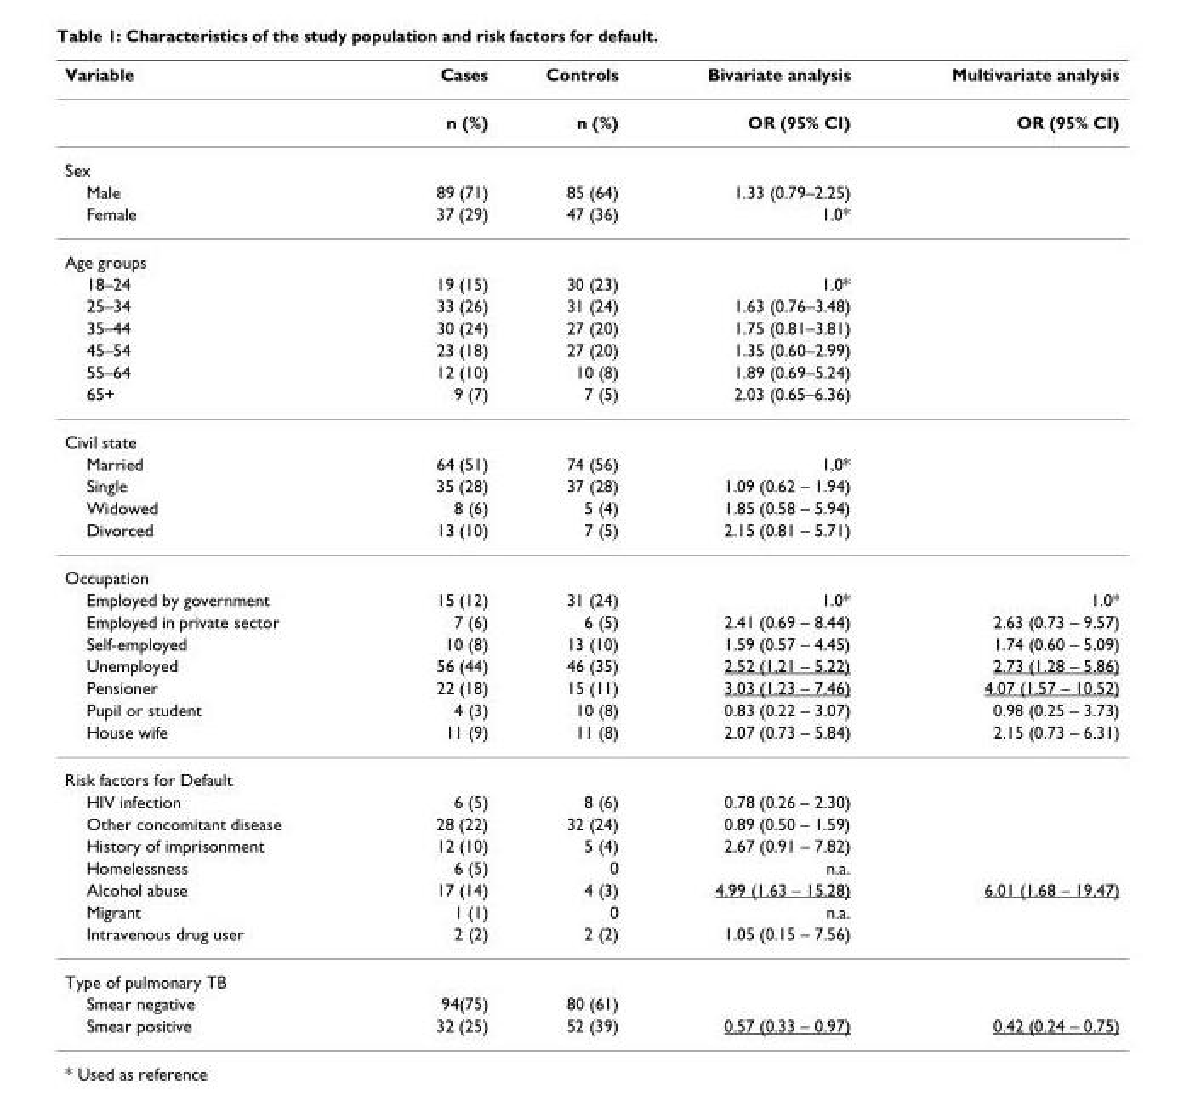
<table><thead><tr><td>Variable</td><td>Cases</td><td>Controls</td><td>Bivariate analysis</td><td>Multivariate analysis</td></tr></thead><tbody><tr><td></td><td>n (%)</td><td>n (%)</td><td>OR (95% CI)</td><td>OR (95% CI)</td></tr><tr><td colspan="5">Sex</td></tr><tr><td>Male</td><td>89 (71)</td><td>85 (64)</td><td>1.33 (0.79–2.25)</td><td></td></tr><tr><td>Female</td><td>37 (29)</td><td>47 (36)</td><td>1.0*</td><td></td></tr><tr><td colspan="5">Age groups</td></tr><tr><td>18–24</td><td>19 (15)</td><td>30 (23)</td><td>1.0*</td><td></td></tr><tr><td>25–34</td><td>33 (26)</td><td>31 (24)</td><td>1.63 (0.76–3.48)</td><td></td></tr><tr><td>35–44</td><td>30 (24)</td><td>27 (20)</td><td>1.75 (0.81–3.81)</td><td></td></tr><tr><td>45–54</td><td>23 (18)</td><td>27 (20)</td><td>1.35 (0.60–2.99)</td><td></td></tr><tr><td>55–64</td><td>12 (10)</td><td>10 (8)</td><td>1.89 (0.69–5.24)</td><td></td></tr><tr><td>65+</td><td>9 (7)</td><td>7 (5)</td><td>2.03 (0.65–6.36)</td><td></td></tr><tr><td colspan="5">Civil state</td></tr><tr><td>Married</td><td>64 (51)</td><td>74 (56)</td><td>1,0*</td><td></td></tr><tr><td>Single</td><td>35 (28)</td><td>37 (28)</td><td>1.09 (0.62 – 1.94)</td><td></td></tr><tr><td>Widowed</td><td>8 (6)</td><td>5 (4)</td><td>1.85 (0.58 – 5.94)</td><td></td></tr><tr><td>Divorced</td><td>13 (10)</td><td>7 (5)</td><td>2.15 (0.81 – 5.71)</td><td></td></tr><tr><td colspan="5">Occupation</td></tr><tr><td>Employed by government</td><td>15 (12)</td><td>31 (24)</td><td>1.0*</td><td>1.0*</td></tr><tr><td>Employed in private sector</td><td>7 (6)</td><td>6 (5)</td><td>2.41 (0.69 – 8.44)</td><td>2.63 (0.73 – 9.57)</td></tr><tr><td>Self-employed</td><td>10 (8)</td><td>13 (10)</td><td>1.59 (0.57 – 4.45)</td><td>1.74 (0.60 – 5.09)</td></tr><tr><td>Unemployed</td><td>56 (44)</td><td>46 (35)</td><td>2.52 (1,21 – 5.22)</td><td>2.73 (1.28 – 5.86)</td></tr><tr><td>Pensioner</td><td>22 (18)</td><td>15 (11)</td><td>3.03 (1.23 – 7.46)</td><td>4.07 (1.57 – 10.52)</td></tr><tr><td>Pupil or student</td><td>4 (3)</td><td>10 (8)</td><td>0.83 (0.22 – 3.07)</td><td>0.98 (0.25 – 3.73)</td></tr><tr><td>House wife</td><td>11 (9)</td><td>11 (8)</td><td>2.07 (0.73 – 5.84)</td><td>2.15 (0.73 – 6.31)</td></tr><tr><td colspan="5">Risk factors for Default</td></tr><tr><td>HIV infection</td><td>6 (5)</td><td>8 (6)</td><td>0.78 (0.26 – 2.30)</td><td></td></tr><tr><td>Other concomitant disease</td><td>28 (22)</td><td>32 (24)</td><td>0.89 (0.50 – 1.59)</td><td></td></tr><tr><td>History of imprisonment</td><td>12 (10)</td><td>5 (4)</td><td>2.67 (0.91 – 7.82)</td><td></td></tr><tr><td>Homelessness</td><td>6 (5)</td><td>0</td><td>n.a.</td><td></td></tr><tr><td>Alcohol abuse</td><td>17 (14)</td><td>4 (3)</td><td>4.99 (1.63 – 15.28)</td><td>6.01 (1.68 – 19.47)</td></tr><tr><td>Migrant</td><td>1 (1)</td><td>0</td><td>n.a.</td><td></td></tr><tr><td>Intravenous drug user</td><td>2 (2)</td><td>2 (2)</td><td>1.05 (0.15 – 7.56)</td><td></td></tr><tr><td colspan="5">Type of pulmonary TB</td></tr><tr><td>Smear negative</td><td>94(75)</td><td>80 (61)</td><td></td><td></td></tr><tr><td>Smear positive</td><td>32 (25)</td><td>52 (39)</td><td>0.57 (0.33 – 0.97)</td><td>0.42 (0.24 – 0.75)</td></tr></tbody></table>